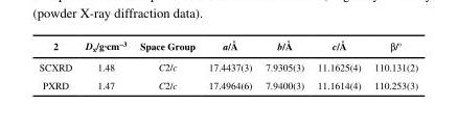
<table><thead><tr><td>2</td><td>D<sub>x</sub>/g·cm<sup>−3</sup></td><td>Space Group</td><td>a/Å</td><td>b/Å</td><td>c/Å</td><td>β/°</td></tr></thead><tbody><tr><td>SCXRD</td><td>1.48</td><td>C2/c</td><td>17.4437(3)</td><td>7.9305(3)</td><td>11.1625(4)</td><td>110.131(2)</td></tr><tr><td>PXRD</td><td>1.47</td><td>C2/c</td><td>17.4964(6)</td><td>7.9400(3)</td><td>11.1614(4)</td><td>110.253(3)</td></tr></tbody></table>